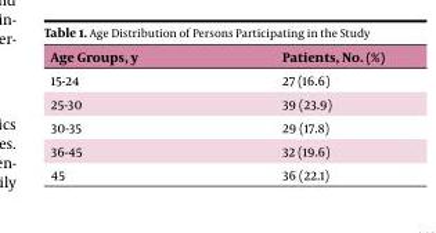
<table><thead><tr><td>Age Groups, y</td><td>Patients, No. (%)</td></tr></thead><tbody><tr><td>15-24</td><td>27 (16.6)</td></tr><tr><td>25-30</td><td>39 (23.9)</td></tr><tr><td>30-35</td><td>29 (17.8)</td></tr><tr><td>36-45</td><td>32 (19.6)</td></tr><tr><td>45</td><td>36 (22.1)</td></tr></tbody></table>